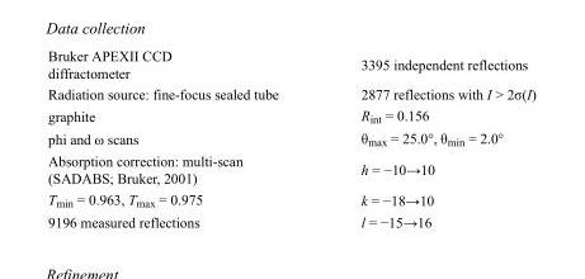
<table><tbody><tr><td>Bruker APEXII CCD diffractometer</td><td>3395 independent reflections</td></tr><tr><td>Radiation source: fine-focus sealed tube</td><td>2877 reflections with I &gt; 2σ(I)</td></tr><tr><td>graphite</td><td>R<sub>int</sub> = 0.156</td></tr><tr><td>phi and ω scans</td><td>θ<sub>max</sub> = 25.0°, θ<sub>min</sub> = 2.0°</td></tr><tr><td>Absorption correction: multi-scan (SADABS; Bruker, 2001)</td><td>h = −10→10</td></tr><tr><td>T<sub>min</sub> = 0.963, T<sub>max</sub> = 0.975</td><td>k = −18→10</td></tr><tr><td>9196 measured reflections</td><td>l = −15→16</td></tr></tbody></table>